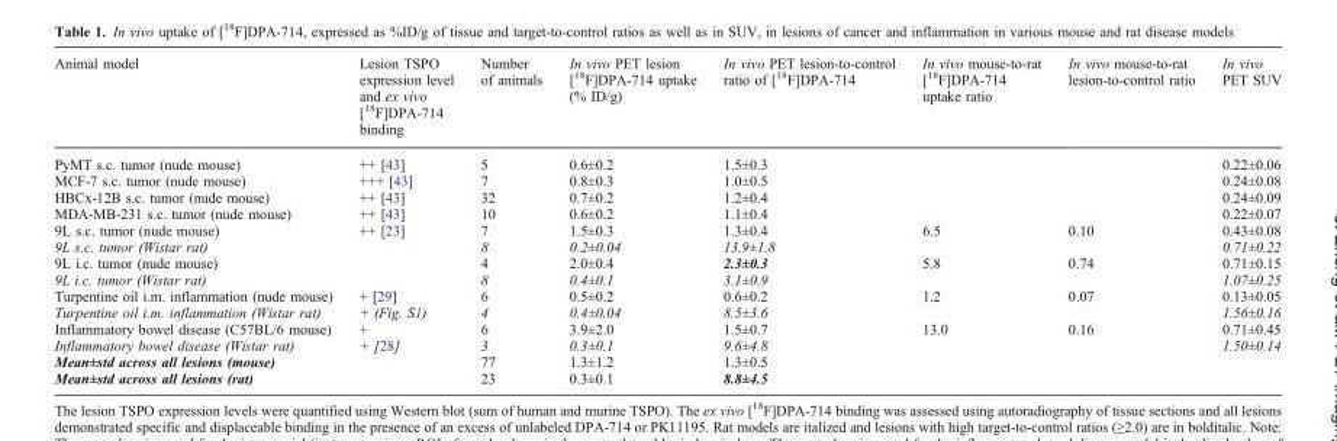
<table><thead><tr><td>Animal model</td><td>Lesion TSPO expression level and ex vivo [<sup>18</sup>F]DPA-714 binding</td><td>Number of animals</td><td>In vivo PET lesion [<sup>18</sup>F]DPA-714 uptake (% ID/g)</td><td>In vivo PET lesion-to-control ratio of [<sup>18</sup>F]DPA-714</td><td>In vivo mouse-to-rat [<sup>18</sup>F]DPA-714 uptake ratio</td><td>In vivo mouse-to-rat lesion-to-control ratio</td><td>In vivo PET SUV</td></tr></thead><tbody><tr><td>PyMT s.c. tumor (nude mouse)</td><td>++ [43]</td><td>5</td><td>0.6±0.2</td><td>1.5±0.3</td><td rowspan="4"></td><td rowspan="4"></td><td>0.22±0.06</td></tr><tr><td>MCF-7 s.c. tumor (nude mouse)</td><td>+++ [43]</td><td>7</td><td>0.8±0.3</td><td>1.0±0.5</td><td>0.24±0.08</td></tr><tr><td>HBCx-12B s.c. tumor (nude mouse)</td><td>++ [43]</td><td>32</td><td>0.7±0.2</td><td>1.2±0.4</td><td>0.24±0.09</td></tr><tr><td>MDA-MB-231 s.c. tumor (nude mouse)</td><td>++ [43]</td><td>10</td><td>0.6±0.2</td><td>1.1±0.4</td><td>0.22±0.07</td></tr><tr><td>9L s.c. tumor (nude mouse)</td><td rowspan="4">++ [23]</td><td>7</td><td>1.5±0.3</td><td>1.3±0.4</td><td rowspan="2">6.5</td><td rowspan="2">0.10</td><td>0.43±0.08</td></tr><tr><td>9L s.c. tumor (Wistar rat)</td><td>8</td><td>0.2±0.04</td><td>13.9±1.8</td><td>0.71±0.22</td></tr><tr><td>9L i.c. tumor (nude mouse)</td><td>4</td><td>2.0±0.4</td><td>2.3±0.3</td><td rowspan="2">5.8</td><td rowspan="2">0.74</td><td>0.71±0.15</td></tr><tr><td>9L i.c. tumor (Wistar rat)</td><td>8</td><td>0.4±0.1</td><td>3.1±0.9</td><td>1.07±0.25</td></tr><tr><td>Turpentine oil i.m. inflammation (nude mouse)</td><td>+ [29]</td><td>6</td><td>0.5±0.2</td><td>0.6±0.2</td><td rowspan="2">1.2</td><td rowspan="2">0.07</td><td>0.13±0.05</td></tr><tr><td>Turpentine oil i.m. inflammation (Wistar rat)</td><td>+ (Fig. S1)</td><td>4</td><td>0.4±0.04</td><td>8.5±3.6</td><td>1.56±0.16</td></tr><tr><td>Inflammatory bowel disease (C57BL/6 mouse)</td><td>+</td><td>6</td><td>3.9±2.0</td><td>1.5±0.7</td><td rowspan="2">13.0</td><td rowspan="2">0.16</td><td>0.71±0.45</td></tr><tr><td>Inflammatory bowel disease (Wistar rat)</td><td>+ [28]</td><td>3</td><td>0.3±0.1</td><td>9.6±4.8</td><td>1.50±0.14</td></tr><tr><td>Mean±std across all lesions (mouse)</td><td></td><td>77</td><td>1.3±1.2</td><td>1.3±0.5</td><td rowspan="2"></td><td rowspan="2"></td><td></td></tr><tr><td>Mean±std across all lesions (rat)</td><td></td><td>23</td><td>0.3±0.1</td><td>8.8±4.5</td><td></td></tr></tbody></table>